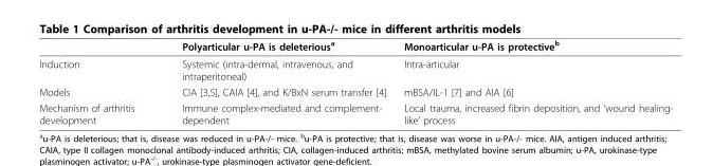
<table><thead><tr><td></td><td>Polyarticular u-PA is deleterious<sup>a</sup></td><td>Monoarticular u-PA is protective<sup>b</sup></td></tr></thead><tbody><tr><td>Induction</td><td>Systemic (intra-dermal, intravenous, and intraperitoneal)</td><td>Intra-articular</td></tr><tr><td>Models</td><td>CIA [3,5], CAIA [4], and K/BxN serum transfer [4]</td><td>mBSA/IL-1 [7] and AIA [6]</td></tr><tr><td>Mechanism of arthritis development</td><td>Immune complex-mediated and complement- dependent</td><td>Local trauma, increased fibrin deposition, and ‘wound healing- like’ process</td></tr></tbody></table>